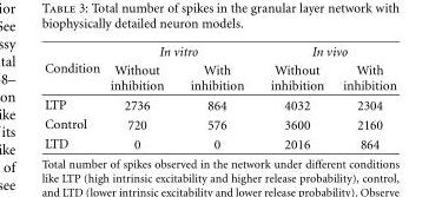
<table><thead><tr><td rowspan="2">Condition</td><td colspan="2">In vitro</td><td colspan="2">In vivo</td></tr><tr><td>Without inhibition</td><td>With inhibition</td><td>Without inhibition</td><td>With inhibition</td></tr></thead><tbody><tr><td>LTP</td><td>2736</td><td>864</td><td>4032</td><td>2304</td></tr><tr><td>Control</td><td>720</td><td>576</td><td>3600</td><td>2160</td></tr><tr><td>LTD</td><td>0</td><td>0</td><td>2016</td><td>864</td></tr></tbody></table>